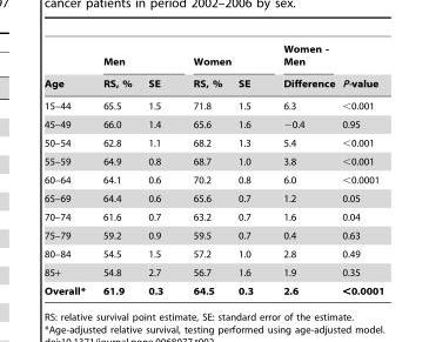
<table><thead><tr><td rowspan="2">Age</td><td colspan="2">Men</td><td colspan="2">Women</td><td rowspan="2">Women - Men Difference</td><td rowspan="2">P-value</td></tr><tr><td>RS, %</td><td>SE</td><td>RS, %</td><td>SE</td></tr></thead><tbody><tr><td>15–44</td><td>65.5</td><td>1.5</td><td>71.8</td><td>1.5</td><td>6.3</td><td>&lt;0.001</td></tr><tr><td>45–49</td><td>66.0</td><td>1.4</td><td>65.6</td><td>1.6</td><td>−0.4</td><td>0.95</td></tr><tr><td>50–54</td><td>62.8</td><td>1.1</td><td>68.2</td><td>1.3</td><td>5.4</td><td>&lt;0.001</td></tr><tr><td>55–59</td><td>64.9</td><td>0.8</td><td>68.7</td><td>1.0</td><td>3.8</td><td>&lt;0.001</td></tr><tr><td>60–64</td><td>64.1</td><td>0.6</td><td>70.2</td><td>0.8</td><td>6.0</td><td>&lt;0.0001</td></tr><tr><td>65–69</td><td>64.4</td><td>0.6</td><td>65.6</td><td>0.7</td><td>1.2</td><td>0.05</td></tr><tr><td>70–74</td><td>61.6</td><td>0.7</td><td>63.2</td><td>0.7</td><td>1.6</td><td>0.04</td></tr><tr><td>75–79</td><td>59.2</td><td>0.9</td><td>59.5</td><td>0.7</td><td>0.4</td><td>0.63</td></tr><tr><td>80–84</td><td>54.5</td><td>1.5</td><td>57.2</td><td>1.0</td><td>2.8</td><td>0.49</td></tr><tr><td>85+</td><td>54.8</td><td>2.7</td><td>56.7</td><td>1.6</td><td>1.9</td><td>0.35</td></tr><tr><td>Overall*</td><td>61.9</td><td>0.3</td><td>64.5</td><td>0.3</td><td>2.6</td><td>&lt;0.0001</td></tr></tbody></table>